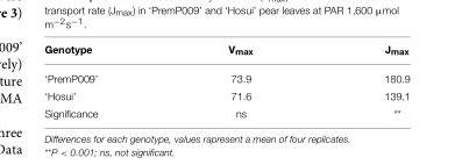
<table><thead><tr><td>Genotype</td><td>V<sub>max</sub></td><td>J<sub>max</sub></td></tr></thead><tbody><tr><td>‘PremP009’</td><td>73.9</td><td>180.9</td></tr><tr><td>‘Hosui’</td><td>71.6</td><td>139.1</td></tr><tr><td>Significance</td><td>ns</td><td>**</td></tr></tbody></table>